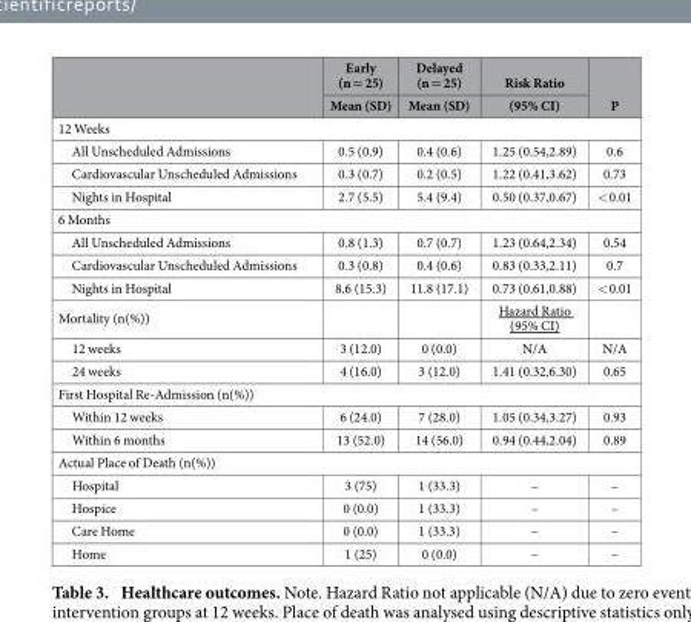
<table><thead><tr><td rowspan="2"></td><td rowspan="2">Early (n = 25) Mean (SD)</td><td rowspan="2">Delayed (n = 25) Mean (SD)</td><td rowspan="2">Risk Ratio (95% CI)</td><td rowspan="2">P</td></tr><tr></tr></thead><tbody><tr><td colspan="5">12 Weeks</td></tr><tr><td>All Unscheduled Admissions</td><td>0.5 (0.9)</td><td>0.4 (0.6)</td><td>1.25 (0.54,2.89)</td><td>0.6</td></tr><tr><td>Cardiovascular Unscheduled Admissions</td><td>0.3 (0.7)</td><td>0.2 (0.5)</td><td>1.22 (0.41,3.62)</td><td>0.73</td></tr><tr><td>Nights in Hospital</td><td>2.7 (5.5)</td><td>5.4 (9.4)</td><td>0.50 (0.37,0.67)</td><td>&lt; 0.01</td></tr><tr><td colspan="5">6 Months</td></tr><tr><td>All Unscheduled Admissions</td><td>0.8 (1.3)</td><td>0.7 (0.7)</td><td>1.23 (0.64,2.34)</td><td>0.54</td></tr><tr><td>Cardiovascular Unscheduled Admissions</td><td>0.3 (0.8)</td><td>0.4 (0.6)</td><td>0.83 (0.33,2.11)</td><td>0.7</td></tr><tr><td>Nights in Hospital</td><td>8.6 (15.3)</td><td>11.8 (17.1)</td><td>0.73 (0.61,0.88)</td><td>&lt; 0.01</td></tr><tr><td>Mortality (n(%))</td><td></td><td></td><td>Hazard Ratio (95% CI)</td><td></td></tr><tr><td>12 weeks</td><td>3 (12.0)</td><td>0 (0.0)</td><td>N/A</td><td>N/A</td></tr><tr><td>24 weeks</td><td>4 (16.0)</td><td>3 (12.0)</td><td>1.41 (0.32,6.30)</td><td>0.65</td></tr><tr><td colspan="5">First Hospital Re-Admission (n(%))</td></tr><tr><td>Within 12 weeks</td><td>6 (24.0)</td><td>7 (28.0)</td><td>1.05 (0.34,3.27)</td><td>0.93</td></tr><tr><td>Within 6 months</td><td>13 (52.0)</td><td>14 (56.0)</td><td>0.94 (0.44,2.04)</td><td>0.89</td></tr><tr><td colspan="5">Actual Place of Death (n(%))</td></tr><tr><td>Hospital</td><td>3 (75)</td><td>1 (33.3)</td><td>–</td><td>–</td></tr><tr><td>Hospice</td><td>0 (0.0)</td><td>1 (33.3)</td><td>–</td><td>–</td></tr><tr><td>Care Home</td><td>0 (0.0)</td><td>1 (33.3)</td><td>–</td><td>–</td></tr><tr><td>Home</td><td>1 (25)</td><td>0 (0.0)</td><td>–</td><td>–</td></tr></tbody></table>